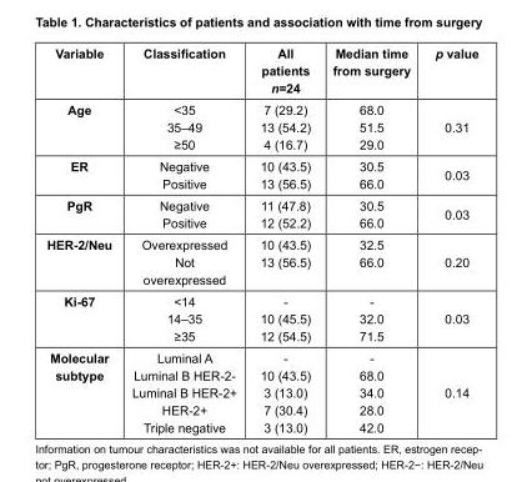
<table><thead><tr><td>Variable</td><td>Classification</td><td>All patients n=24</td><td>Median time from surgery</td><td>p value</td></tr></thead><tbody><tr><td rowspan="3">Age</td><td>&lt;35</td><td>7 (29.2)</td><td>68.0</td><td rowspan="3">0.31</td></tr><tr><td>35–49</td><td>13 (54.2)</td><td>51.5</td></tr><tr><td>≥50</td><td>4 (16.7)</td><td>29.0</td></tr><tr><td rowspan="2">ER</td><td>Negative</td><td>10 (43.5)</td><td>30.5</td><td rowspan="2">0.03</td></tr><tr><td>Positive</td><td>13 (56.5)</td><td>66.0</td></tr><tr><td rowspan="2">PgR</td><td>Negative</td><td>11 (47.8)</td><td>30.5</td><td rowspan="2">0.03</td></tr><tr><td>Positive</td><td>12 (52.2)</td><td>66.0</td></tr><tr><td rowspan="2">HER-2/Neu</td><td>Overexpressed</td><td>10 (43.5)</td><td>32.5</td><td rowspan="2">0.20</td></tr><tr><td>Not overexpressed</td><td>13 (56.5)</td><td>66.0</td></tr><tr><td rowspan="3">Ki-67</td><td>&lt;14</td><td>-</td><td>-</td><td rowspan="3">0.03</td></tr><tr><td>14–35</td><td>10 (45.5)</td><td>32.0</td></tr><tr><td>≥35</td><td>12 (54.5)</td><td>71.5</td></tr><tr><td rowspan="5">Molecular subtype</td><td>Luminal A</td><td>-</td><td>-</td><td rowspan="5">0.14</td></tr><tr><td>Luminal B HER-2-</td><td>10 (43.5)</td><td>68.0</td></tr><tr><td>Luminal B HER-2+</td><td>3 (13.0)</td><td>34.0</td></tr><tr><td>HER-2+</td><td>7 (30.4)</td><td>28.0</td></tr><tr><td>Triple negative</td><td>3 (13.0)</td><td>42.0</td></tr></tbody></table>